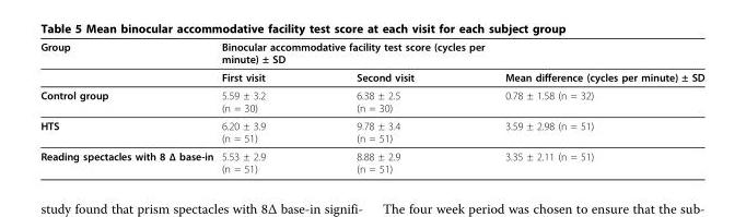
<table><thead><tr><td rowspan="2">Group</td><td colspan="2">Binocular accommodative facility test score (cycles per minute) ± SD</td><td rowspan="2">Mean difference (cycles per minute) ± SD</td></tr><tr><td>First visit</td><td>Second visit</td></tr></thead><tbody><tr><td>Control group</td><td>5.59 ± 3.2 (n = 30)</td><td>6.38 ± 2.5 (n = 30)</td><td>0.78 ± 1.58 (n = 32)</td></tr><tr><td>HTS</td><td>6.20 ± 3.9 (n = 51)</td><td>9.78 ± 3.4 (n = 51)</td><td>3.59 ± 2.98 (n = 51)</td></tr><tr><td>Reading spectacles with 8 Δ base-in</td><td>5.53 ± 2.9 (n = 51)</td><td>8.88 ± 2.9 (n = 51)</td><td>3.35 ± 2.11 (n = 51)</td></tr></tbody></table>